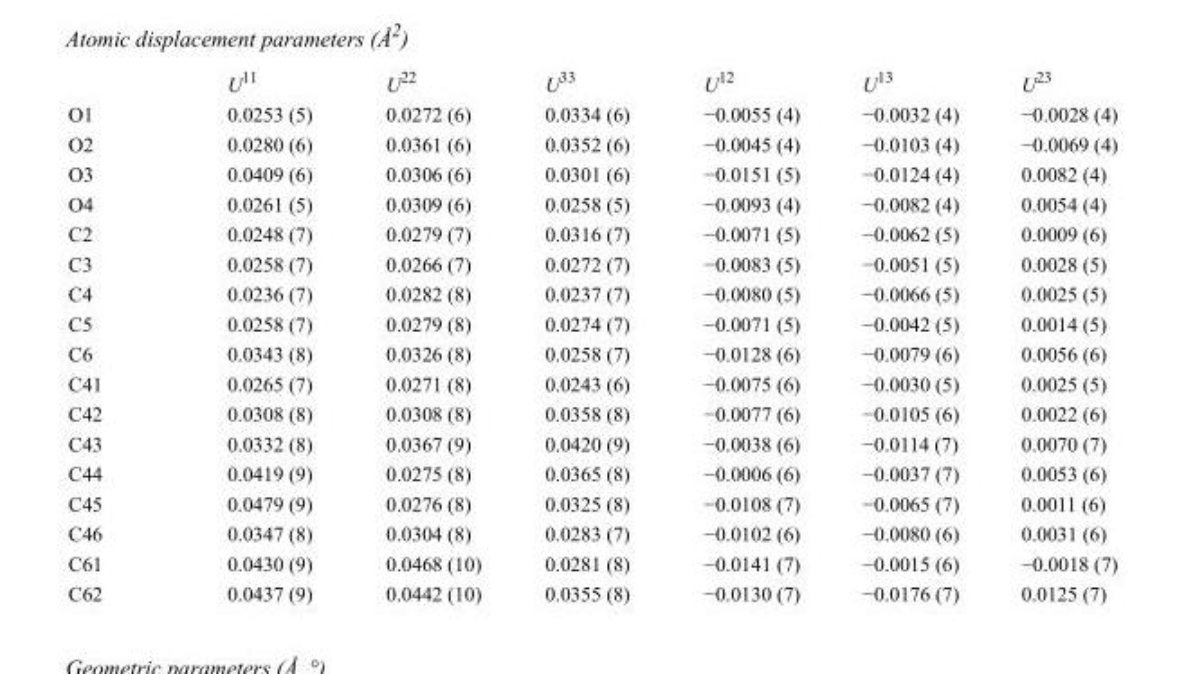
<table><thead><tr><td></td><td>U<sup>11</sup></td><td>U<sup>22</sup></td><td>U<sup>33</sup></td><td>U<sup>12</sup></td><td>U<sup>13</sup></td><td>U<sup>23</sup></td></tr></thead><tbody><tr><td>O1</td><td>0.0253 (5)</td><td>0.0272 (6)</td><td>0.0334 (6)</td><td>−0.0055 (4)</td><td>−0.0032 (4)</td><td>−0.0028 (4)</td></tr><tr><td>O2</td><td>0.0280 (6)</td><td>0.0361 (6)</td><td>0.0352 (6)</td><td>−0.0045 (4)</td><td>−0.0103 (4)</td><td>−0.0069 (4)</td></tr><tr><td>O3</td><td>0.0409 (6)</td><td>0.0306 (6)</td><td>0.0301 (6)</td><td>−0.0151 (5)</td><td>−0.0124 (4)</td><td>0.0082 (4)</td></tr><tr><td>O4</td><td>0.0261 (5)</td><td>0.0309 (6)</td><td>0.0258 (5)</td><td>−0.0093 (4)</td><td>−0.0082 (4)</td><td>0.0054 (4)</td></tr><tr><td>C2</td><td>0.0248 (7)</td><td>0.0279 (7)</td><td>0.0316 (7)</td><td>−0.0071 (5)</td><td>−0.0062 (5)</td><td>0.0009 (6)</td></tr><tr><td>C3</td><td>0.0258 (7)</td><td>0.0266 (7)</td><td>0.0272 (7)</td><td>−0.0083 (5)</td><td>−0.0051 (5)</td><td>0.0028 (5)</td></tr><tr><td>C4</td><td>0.0236 (7)</td><td>0.0282 (8)</td><td>0.0237 (7)</td><td>−0.0080 (5)</td><td>−0.0066 (5)</td><td>0.0025 (5)</td></tr><tr><td>C5</td><td>0.0258 (7)</td><td>0.0279 (8)</td><td>0.0274 (7)</td><td>−0.0071 (5)</td><td>−0.0042 (5)</td><td>0.0014 (5)</td></tr><tr><td>C6</td><td>0.0343 (8)</td><td>0.0326 (8)</td><td>0.0258 (7)</td><td>−0.0128 (6)</td><td>−0.0079 (6)</td><td>0.0056 (6)</td></tr><tr><td>C41</td><td>0.0265 (7)</td><td>0.0271 (8)</td><td>0.0243 (6)</td><td>−0.0075 (6)</td><td>−0.0030 (5)</td><td>0.0025 (5)</td></tr><tr><td>C42</td><td>0.0308 (8)</td><td>0.0308 (8)</td><td>0.0358 (8)</td><td>−0.0077 (6)</td><td>−0.0105 (6)</td><td>0.0022 (6)</td></tr><tr><td>C43</td><td>0.0332 (8)</td><td>0.0367 (9)</td><td>0.0420 (9)</td><td>−0.0038 (6)</td><td>−0.0114 (7)</td><td>0.0070 (7)</td></tr><tr><td>C44</td><td>0.0419 (9)</td><td>0.0275 (8)</td><td>0.0365 (8)</td><td>−0.0006 (6)</td><td>−0.0037 (7)</td><td>0.0053 (6)</td></tr><tr><td>C45</td><td>0.0479 (9)</td><td>0.0276 (8)</td><td>0.0325 (8)</td><td>−0.0108 (7)</td><td>−0.0065 (7)</td><td>0.0011 (6)</td></tr><tr><td>C46</td><td>0.0347 (8)</td><td>0.0304 (8)</td><td>0.0283 (7)</td><td>−0.0102 (6)</td><td>−0.0080 (6)</td><td>0.0031 (6)</td></tr><tr><td>C61</td><td>0.0430 (9)</td><td>0.0468 (10)</td><td>0.0281 (8)</td><td>−0.0141 (7)</td><td>−0.0015 (6)</td><td>−0.0018 (7)</td></tr><tr><td>C62</td><td>0.0437 (9)</td><td>0.0442 (10)</td><td>0.0355 (8)</td><td>−0.0130 (7)</td><td>−0.0176 (7)</td><td>0.0125 (7)</td></tr></tbody></table>